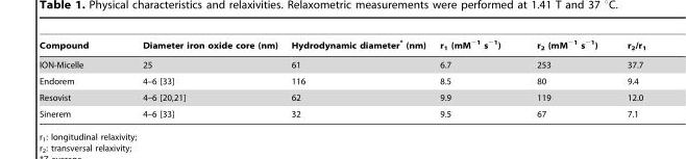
<table><thead><tr><td>Compound</td><td>Diameter iron oxide core (nm)</td><td>Hydrodynamic diameter* (nm)</td><td>r<sub>1</sub> (mM<sup>−1</sup> s<sup>−1</sup>)</td><td>r<sub>2</sub> (mM<sup>−1</sup> s<sup>−1</sup>)</td><td>r<sub>2</sub>/r<sub>1</sub></td></tr></thead><tbody><tr><td>ION-Micelle</td><td>25</td><td>61</td><td>6.7</td><td>253</td><td>37.7</td></tr><tr><td>Endorem</td><td>4–6 [33]</td><td>116</td><td>8.5</td><td>80</td><td>9.4</td></tr><tr><td>Resovist</td><td>4–6 [20,21]</td><td>62</td><td>9.9</td><td>119</td><td>12.0</td></tr><tr><td>Sinerem</td><td>4–6 [33]</td><td>32</td><td>9.5</td><td>67</td><td>7.1</td></tr></tbody></table>